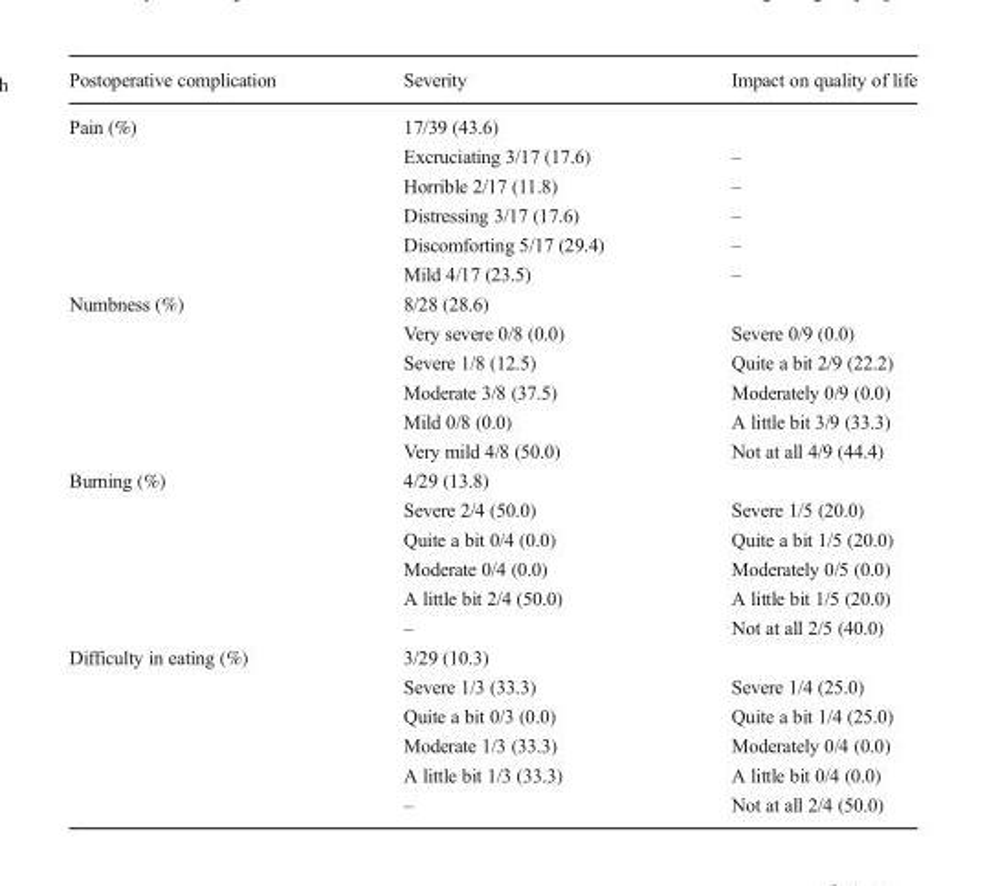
<table><thead><tr><td>Postoperative complication</td><td>Severity</td><td>Impact on quality of life</td></tr></thead><tbody><tr><td rowspan="6">Pain (%)</td><td>17/39 (43.6)</td><td></td></tr><tr><td>Excruciating 3/17 (17.6)</td><td>–</td></tr><tr><td>Horrible 2/17 (11.8)</td><td>–</td></tr><tr><td>Distressing 3/17 (17.6)</td><td>–</td></tr><tr><td>Discomforting 5/17 (29.4)</td><td>–</td></tr><tr><td>Mild 4/17 (23.5)</td><td>–</td></tr><tr><td rowspan="6">Numbness (%)</td><td>8/28 (28.6)</td><td></td></tr><tr><td>Very severe 0/8 (0.0)</td><td>Severe 0/9 (0.0)</td></tr><tr><td>Severe 1/8 (12.5)</td><td>Quite a bit 2/9 (22.2)</td></tr><tr><td>Moderate 3/8 (37.5)</td><td>Moderately 0/9 (0.0)</td></tr><tr><td>Mild 0/8 (0.0)</td><td>A little bit 3/9 (33.3)</td></tr><tr><td>Very mild 4/8 (50.0)</td><td>Not at all 4/9 (44.4)</td></tr><tr><td rowspan="6">Burning (%)</td><td>4/29 (13.8)</td><td></td></tr><tr><td>Severe 2/4 (50.0)</td><td>Severe 1/5 (20.0)</td></tr><tr><td>Quite a bit 0/4 (0.0)</td><td>Quite a bit 1/5 (20.0)</td></tr><tr><td>Moderate 0/4 (0.0)</td><td>Moderately 0/5 (0.0)</td></tr><tr><td>A little bit 2/4 (50.0)</td><td>A little bit 1/5 (20.0)</td></tr><tr><td>–</td><td>Not at all 2/5 (40.0)</td></tr><tr><td rowspan="6">Difficulty in eating (%)</td><td>3/29 (10.3)</td><td></td></tr><tr><td>Severe 1/3 (33.3)</td><td>Severe 1/4 (25.0)</td></tr><tr><td>Quite a bit 0/3 (0.0)</td><td>Quite a bit 1/4 (25.0)</td></tr><tr><td>Moderate 1/3 (33.3)</td><td>Moderately 0/4 (0.0)</td></tr><tr><td>A little bit 1/3 (33.3)</td><td>A little bit 0/4 (0.0)</td></tr><tr><td>–</td><td>Not at all 2/4 (50.0)</td></tr></tbody></table>